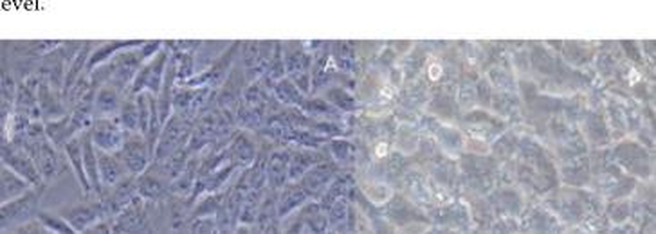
<table><thead><tr><td>Groups</td><td>24 h</td></tr></thead><tbody><tr><td>CG</td><td>150.33 ± 43.13 *</td></tr><tr><td>MG</td><td>1200.25 ± 16.43 <sup>★</sup></td></tr><tr><td>QG</td><td>655.12 ± 31.45 <sup>★,</sup>*</td></tr></tbody></table>